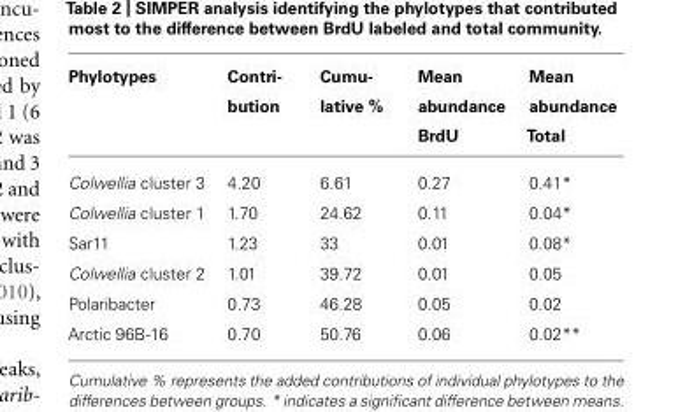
<table><thead><tr><td>Phylotypes</td><td>Contri- bution</td><td>Cumu- lative %</td><td>Mean abundance BrdU</td><td>Mean abundance Total</td></tr></thead><tbody><tr><td>Colwellia cluster 3</td><td>4.20</td><td>6.61</td><td>0.27</td><td>0.41*</td></tr><tr><td>Colwellia cluster 1</td><td>1.70</td><td>24.62</td><td>0.11</td><td>0.04*</td></tr><tr><td>Sar11</td><td>1.23</td><td>33</td><td>0.01</td><td>0.08*</td></tr><tr><td>Colwellia cluster 2</td><td>1.01</td><td>39.72</td><td>0.01</td><td>0.05</td></tr><tr><td>Polaribacter</td><td>0.73</td><td>46.28</td><td>0.05</td><td>0.02</td></tr><tr><td>Arctic 96B-16</td><td>0.70</td><td>50.76</td><td>0.06</td><td>0.02**</td></tr></tbody></table>